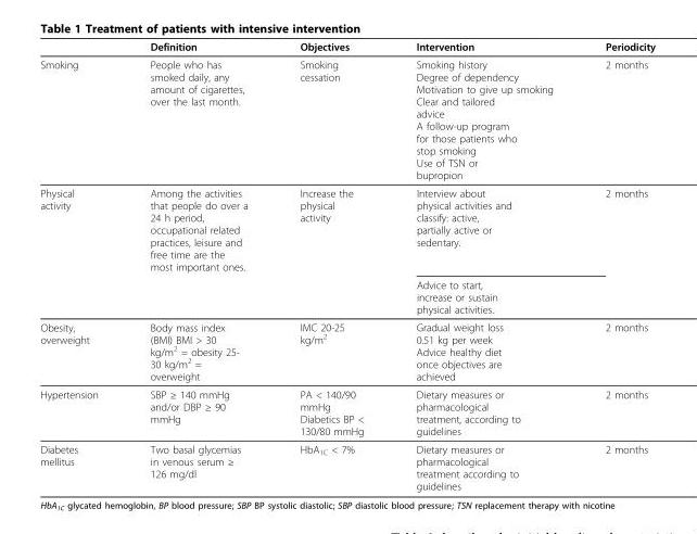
<table><thead><tr><td></td><td>Definition</td><td>Objectives</td><td>Intervention</td><td>Periodicity</td></tr></thead><tbody><tr><td>Smoking</td><td>People who has smoked daily, any amount of cigarettes, over the last month.</td><td>Smoking cessation</td><td>Smoking history Degree of dependency Motivation to give up smoking Clear and tailored advice A follow-up program for those patients who stop smoking Use of TSN or bupropion</td><td>2 months</td></tr><tr><td rowspan="2">Physical activity</td><td>Among the activities that people do over a 24 h period, occupational related practices, leisure and free time are the most important ones.</td><td>Increase the physical activity</td><td>Interview about physical activities and classify: active, partially active or sedentary.</td><td>2 months</td></tr><tr><td></td><td></td><td>Advice to start, increase or sustain physical activities.</td><td></td></tr><tr><td>Obesity, overweight</td><td>Body mass index (BMI) BMI &gt; 30 kg/m<sup>2</sup> = obesity 25- 30 kg/m<sup>2</sup> = overweight</td><td>IMC 20-25 kg/m<sup>2</sup></td><td>Gradual weight loss 0.51 kg per week Advice healthy diet once objectives are achieved</td><td>2 months</td></tr><tr><td>Hypertension</td><td>SBP ≥ 140 mmHg and/or DBP ≥ 90 mmHg</td><td>PA &lt; 140/90 mmHg Diabetics BP &lt; 130/80 mmHg</td><td>Dietary measures or pharmacological treatment, according to guidelines</td><td>2 months</td></tr><tr><td>Diabetes mellitus</td><td>Two basal glycemias in venous serum ≥ 126 mg/dl</td><td>HbA<sub>1C</sub> &lt; 7%</td><td>Dietary measures or pharmacological treatment according to guidelines</td><td>2 months</td></tr></tbody></table>